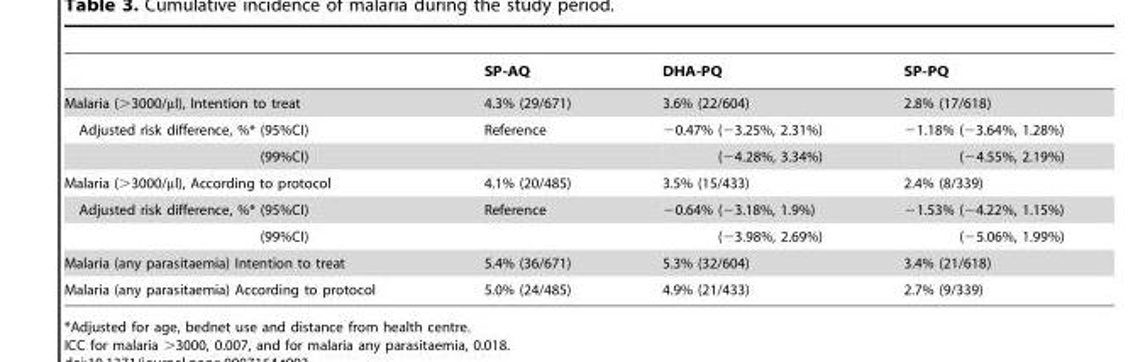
<table><thead><tr><td></td><td>SP-AQ</td><td>DHA-PQ</td><td>SP-PQ</td></tr></thead><tbody><tr><td>Malaria (&gt;3000/µl), Intention to treat</td><td>4.3% (29/671)</td><td>3.6% (22/604)</td><td>2.8% (17/618)</td></tr><tr><td>Adjusted risk difference, %* (95%CI)</td><td>Reference</td><td>−0.47% (−3.25%, 2.31%)</td><td>−1.18% (−3.64%, 1.28%)</td></tr><tr><td>(99%CI)</td><td></td><td>(−4.28%, 3.34%)</td><td>(−4.55%, 2.19%)</td></tr><tr><td>Malaria (&gt;3000/µl), According to protocol</td><td>4.1% (20/485)</td><td>3.5% (15/433)</td><td>2.4% (8/339)</td></tr><tr><td>Adjusted risk difference, %* (95%CI)</td><td>Reference</td><td>−0.64% (−3.18%, 1.9%)</td><td>−1.53% (−4.22%, 1.15%)</td></tr><tr><td>(99%CI)</td><td></td><td>(−3.98%, 2.69%)</td><td>(−5.06%, 1.99%)</td></tr><tr><td>Malaria (any parasitaemia) Intention to treat</td><td>5.4% (36/671)</td><td>5.3% (32/604)</td><td>3.4% (21/618)</td></tr><tr><td>Malaria (any parasitaemia) According to protocol</td><td>5.0% (24/485)</td><td>4.9% (21/433)</td><td>2.7% (9/339)</td></tr></tbody></table>